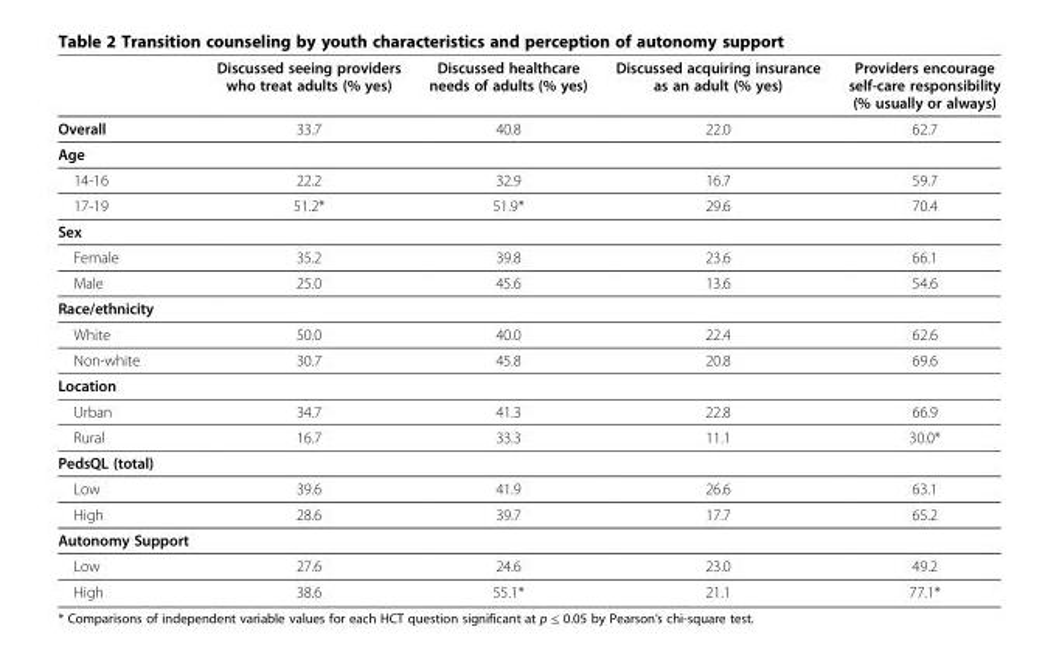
<table><thead><tr><td></td><td>Discussed seeing providers who treat adults (% yes)</td><td>Discussed healthcare needs of adults (% yes)</td><td>Discussed acquiring insurance as an adult (% yes)</td><td>Providers encourage self-care responsibility (% usually or always)</td></tr></thead><tbody><tr><td>Overall</td><td>33.7</td><td>40.8</td><td>22.0</td><td>62.7</td></tr><tr><td colspan="5">Age</td></tr><tr><td>14-16</td><td>22.2</td><td>32.9</td><td>16.7</td><td>59.7</td></tr><tr><td>17-19</td><td>51.2*</td><td>51.9*</td><td>29.6</td><td>70.4</td></tr><tr><td colspan="5">Sex</td></tr><tr><td>Female</td><td>35.2</td><td>39.8</td><td>23.6</td><td>66.1</td></tr><tr><td>Male</td><td>25.0</td><td>45.6</td><td>13.6</td><td>54.6</td></tr><tr><td colspan="5">Race/ethnicity</td></tr><tr><td>White</td><td>50.0</td><td>40.0</td><td>22.4</td><td>62.6</td></tr><tr><td>Non-white</td><td>30.7</td><td>45.8</td><td>20.8</td><td>69.6</td></tr><tr><td colspan="5">Location</td></tr><tr><td>Urban</td><td>34.7</td><td>41.3</td><td>22.8</td><td>66.9</td></tr><tr><td>Rural</td><td>16.7</td><td>33.3</td><td>11.1</td><td>30.0*</td></tr><tr><td colspan="5">PedsQL (total)</td></tr><tr><td>Low</td><td>39.6</td><td>41.9</td><td>26.6</td><td>63.1</td></tr><tr><td>High</td><td>28.6</td><td>39.7</td><td>17.7</td><td>65.2</td></tr><tr><td colspan="5">Autonomy Support</td></tr><tr><td>Low</td><td>27.6</td><td>24.6</td><td>23.0</td><td>49.2</td></tr><tr><td>High</td><td>38.6</td><td>55.1*</td><td>21.1</td><td>77.1*</td></tr></tbody></table>